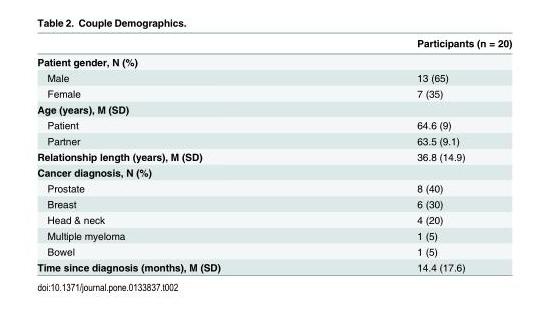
<table><thead><tr><td></td><td>Participants (n = 20)</td></tr></thead><tbody><tr><td colspan="2">Patient gender, N (%)</td></tr><tr><td>Male</td><td>13 (65)</td></tr><tr><td>Female</td><td>7 (35)</td></tr><tr><td colspan="2">Age (years), M (SD)</td></tr><tr><td>Patient</td><td>64.6 (9)</td></tr><tr><td>Partner</td><td>63.5 (9.1)</td></tr><tr><td>Relationship length (years), M (SD)</td><td>36.8 (14.9)</td></tr><tr><td colspan="2">Cancer diagnosis, N (%)</td></tr><tr><td>Prostate</td><td>8 (40)</td></tr><tr><td>Breast</td><td>6 (30)</td></tr><tr><td>Head &amp; neck</td><td>4 (20)</td></tr><tr><td>Multiple myeloma</td><td>1 (5)</td></tr><tr><td>Bowel</td><td>1 (5)</td></tr><tr><td>Time since diagnosis (months), M (SD)</td><td>14.4 (17.6)</td></tr></tbody></table>